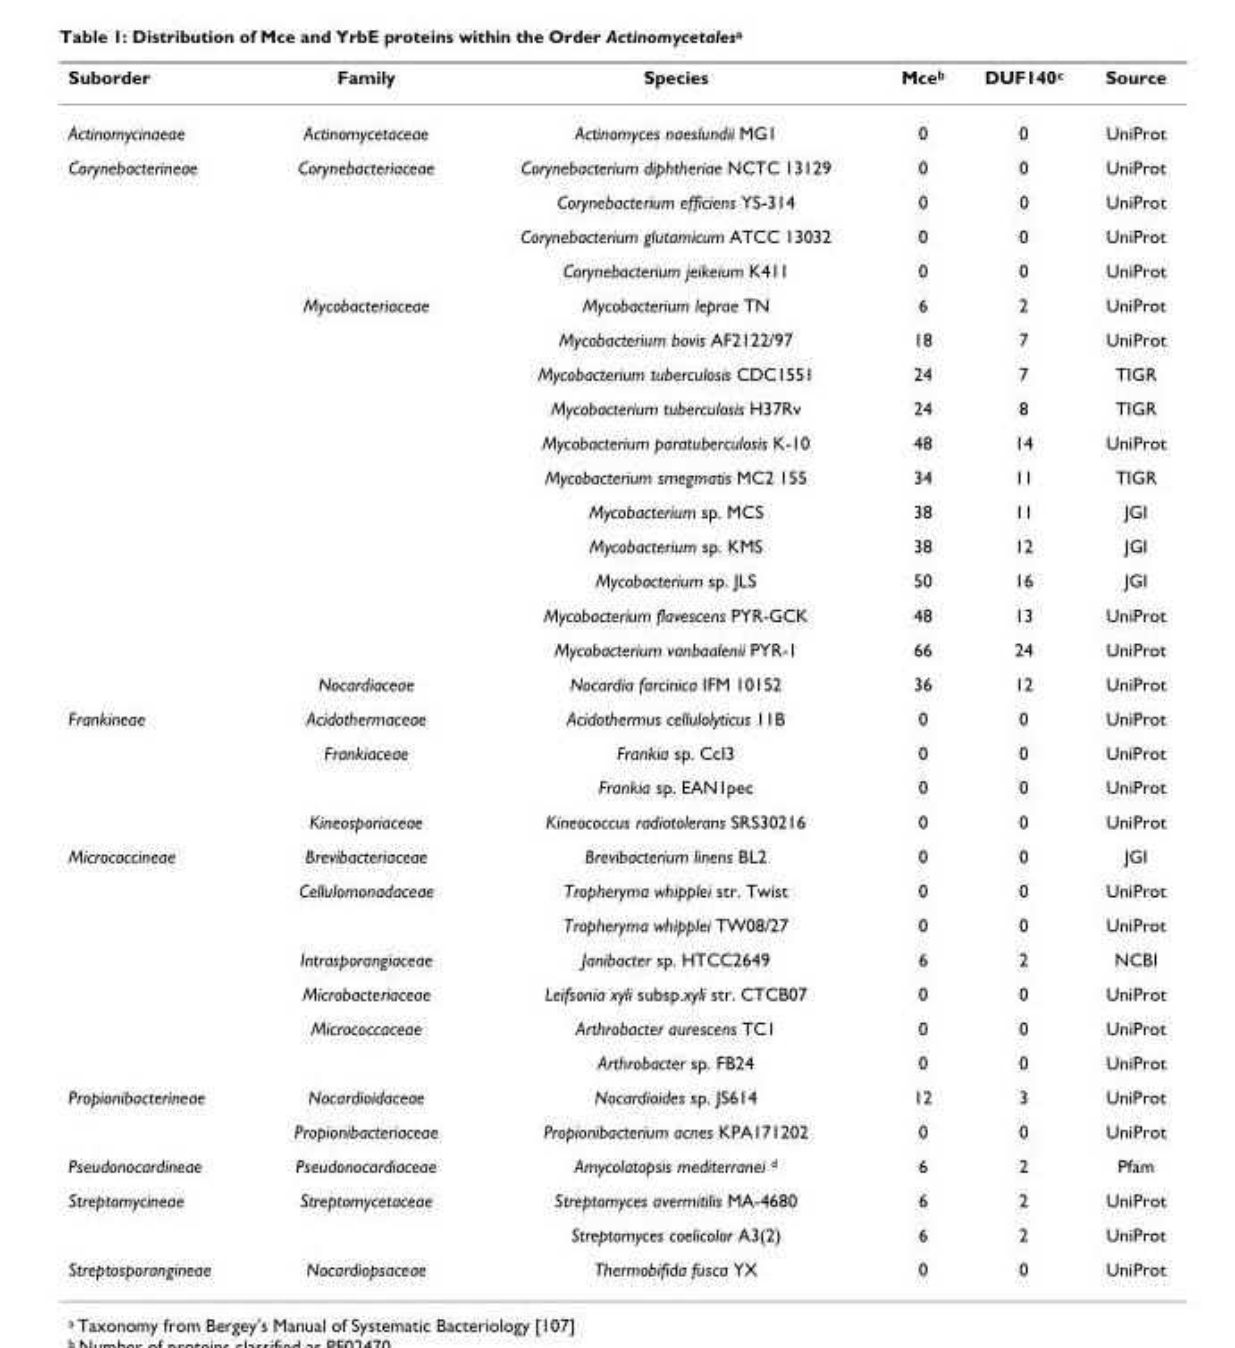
<table><thead><tr><td>Suborder</td><td>Family</td><td>Species</td><td>Mceb</td><td>DUF140c</td><td>Source</td></tr></thead><tbody><tr><td>Actinomycinaeae</td><td>Actinomycetaceae</td><td>Actinomyces naeslundii MG1</td><td>0</td><td>0</td><td>UniProt</td></tr><tr><td rowspan="16">Corynebacterineae</td><td>Corynebacteriaceae</td><td>Corynebacterium diphtheriae NCTC 13129</td><td>0</td><td>0</td><td>UniProt</td></tr><tr><td></td><td>Corynebacterium efficiens YS-314</td><td>0</td><td>0</td><td>UniProt</td></tr><tr><td></td><td>Corynebacterium glutamicum ATCC 13032</td><td>0</td><td>0</td><td>UniProt</td></tr><tr><td></td><td>Corynebacterium jeikeium K411</td><td>0</td><td>0</td><td>UniProt</td></tr><tr><td>Mycobacteriaceae</td><td>Mycobacterium leprae TN</td><td>6</td><td>2</td><td>UniProt</td></tr><tr><td></td><td>Mycobacterium bovis AF2122/97</td><td>18</td><td>7</td><td>UniProt</td></tr><tr><td></td><td>Mycobacterium tuberculosis CDC1551</td><td>24</td><td>7</td><td>TIGR</td></tr><tr><td></td><td>Mycobacterium tuberculosis H37Rv</td><td>24</td><td>8</td><td>TIGR</td></tr><tr><td></td><td>Mycobacterium paratuberculosis K-10</td><td>48</td><td>14</td><td>UniProt</td></tr><tr><td></td><td>Mycobacterium smegmatis MC2 155</td><td>34</td><td>11</td><td>TIGR</td></tr><tr><td></td><td>Mycobacterium sp. MCS</td><td>38</td><td>11</td><td>JGI</td></tr><tr><td></td><td>Mycobacterium sp. KMS</td><td>38</td><td>12</td><td>JGI</td></tr><tr><td></td><td>Mycobacterium sp. JLS</td><td>50</td><td>16</td><td>JGI</td></tr><tr><td></td><td>Mycobacterium flavescens PYR-GCK</td><td>48</td><td>13</td><td>UniProt</td></tr><tr><td></td><td>Mycobacterium vanbaalenii PYR-1</td><td>66</td><td>24</td><td>UniProt</td></tr><tr><td>Nocardiaceae</td><td>Nocardia farcinica IFM 10152</td><td>36</td><td>12</td><td>UniProt</td></tr><tr><td rowspan="4">Frankineae</td><td>Acidothermaceae</td><td>Acidothermus cellulolyticus 11B</td><td>0</td><td>0</td><td>UniProt</td></tr><tr><td>Frankiaceae</td><td>Frankia sp. CcI3</td><td>0</td><td>0</td><td>UniProt</td></tr><tr><td></td><td>Frankia sp. EAN1pec</td><td>0</td><td>0</td><td>UniProt</td></tr><tr><td>Kineosporiaceae</td><td>Kineococcus radiotolerans SRS30216</td><td>0</td><td>0</td><td>UniProt</td></tr><tr><td rowspan="7">Micrococcineae</td><td>Brevibacteriaceae</td><td>Brevibacterium linens BL2</td><td>0</td><td>0</td><td>JGI</td></tr><tr><td>Cellulomonadaceae</td><td>Tropheryma whipplei str. Twist</td><td>0</td><td>0</td><td>UniProt</td></tr><tr><td></td><td>Tropheryma whipplei TW08/27</td><td>0</td><td>0</td><td>UniProt</td></tr><tr><td>Intrasporangiaceae</td><td>Janibacter sp. HTCC2649</td><td>6</td><td>2</td><td>NCBI</td></tr><tr><td>Microbacteriaceae</td><td>Leifsonia xyli subsp.xyli str. CTCB07</td><td>0</td><td>0</td><td>UniProt</td></tr><tr><td>Micrococcaceae</td><td>Arthrobacter aurescens TC1</td><td>0</td><td>0</td><td>UniProt</td></tr><tr><td></td><td>Arthrobacter sp. FB24</td><td>0</td><td>0</td><td>UniProt</td></tr><tr><td rowspan="2">Propionibacterineae</td><td>Nocardioidaceae</td><td>Nocardioides sp. JS614</td><td>12</td><td>3</td><td>UniProt</td></tr><tr><td>Propionibacteriaceae</td><td>Propionibacterium acnes KPA171202</td><td>0</td><td>0</td><td>UniProt</td></tr><tr><td>Pseudonocardineae</td><td>Pseudonocardiaceae</td><td>Amycolatopsis mediterranei d</td><td>6</td><td>2</td><td>Pfam</td></tr><tr><td rowspan="2">Streptomycineae</td><td>Streptomycetaceae</td><td>Streptomyces avermitilis MA-4680</td><td>6</td><td>2</td><td>UniProt</td></tr><tr><td></td><td>Streptomyces coelicolor A3(2)</td><td>6</td><td>2</td><td>UniProt</td></tr><tr><td>Streptosporangineae</td><td>Nocardiopsaceae</td><td>Thermobifida fusca YX</td><td>0</td><td>0</td><td>UniProt</td></tr></tbody></table>